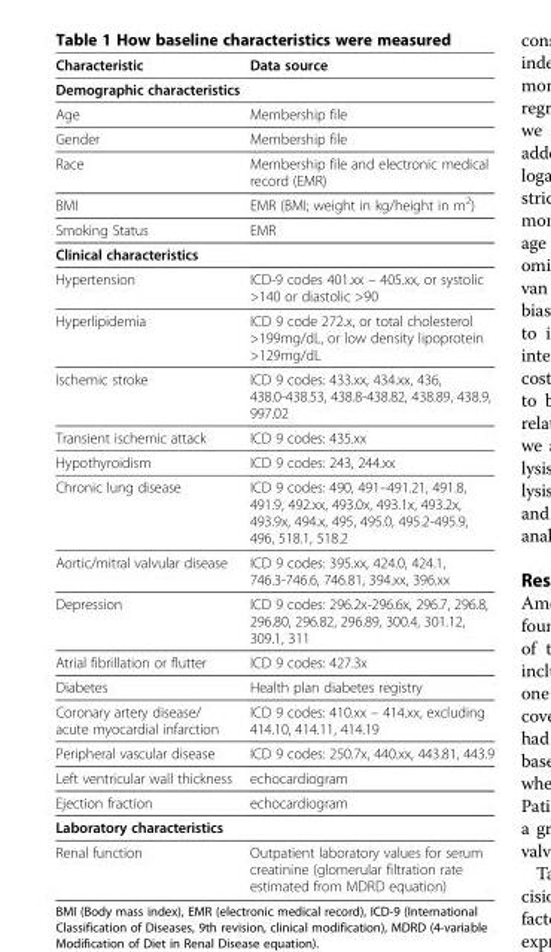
<table><thead><tr><td>Characteristic</td><td>Data source</td></tr></thead><tbody><tr><td colspan="2">Demographic characteristics</td></tr><tr><td>Age</td><td>Membership file</td></tr><tr><td>Gender</td><td>Membership file</td></tr><tr><td>Race</td><td>Membership file and electronic medical record (EMR)</td></tr><tr><td>BMI</td><td>EMR (BMI; weight in kg/height in m<sup>2</sup>)</td></tr><tr><td>Smoking Status</td><td>EMR</td></tr><tr><td colspan="2">Clinical characteristics</td></tr><tr><td>Hypertension</td><td>ICD-9 codes 401.xx – 405.xx, or systolic &gt;140 or diastolic &gt;90</td></tr><tr><td>Hyperlipidemia</td><td>ICD 9 code 272.x, or total cholesterol &gt;199mg/dL, or low density lipoprotein &gt;129mg/dL</td></tr><tr><td>Ischemic stroke</td><td>ICD 9 codes: 433.xx, 434.xx, 436, 438.0-438.53, 438.8-438.82, 438.89, 438.9, 997.02</td></tr><tr><td>Transient ischemic attack</td><td>ICD 9 codes: 435.xx</td></tr><tr><td>Hypothyroidism</td><td>ICD 9 codes: 243, 244.xx</td></tr><tr><td>Chronic lung disease</td><td>ICD 9 codes: 490, 491–491.21, 491.8, 491.9, 492.xx, 493.0x, 493.1x, 493.2x, 493.9x, 494.x, 495, 495.0, 495.2-495.9, 496, 518.1, 518.2</td></tr><tr><td>Aortic/mitral valvular disease</td><td>ICD 9 codes: 395.xx, 424.0, 424.1, 746.3-746.6, 746.81, 394.xx, 396.xx</td></tr><tr><td>Depression</td><td>ICD 9 codes: 296.2x-296.6x, 296.7, 296.8, 296.80, 296.82, 296.89, 300.4, 301.12, 309.1, 311</td></tr><tr><td>Atrial fibrillation or flutter</td><td>ICD 9 codes: 427.3x</td></tr><tr><td>Diabetes</td><td>Health plan diabetes registry</td></tr><tr><td>Coronary artery disease/ acute myocardial infarction</td><td>ICD 9 codes: 410.xx – 414.xx, excluding 414.10, 414.11, 414.19</td></tr><tr><td>Peripheral vascular disease</td><td>ICD 9 codes: 250.7x, 440.xx, 443.81, 443.9</td></tr><tr><td>Left ventricular wall thickness</td><td>echocardiogram</td></tr><tr><td>Ejection fraction</td><td>echocardiogram</td></tr><tr><td colspan="2">Laboratory characteristics</td></tr><tr><td>Renal function</td><td>Outpatient laboratory values for serum creatinine (glomerular filtration rate estimated from MDRD equation)</td></tr></tbody></table>